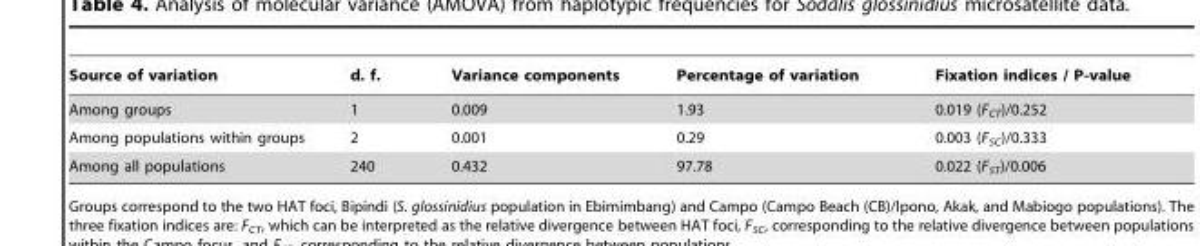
<table><thead><tr><td>Source of variation</td><td>d. f.</td><td>Variance components</td><td>Percentage of variation</td><td>Fixation indices / P-value</td></tr></thead><tbody><tr><td>Among groups</td><td>1</td><td>0.009</td><td>1.93</td><td>0.019 (F<sub>CT</sub>)/0.252</td></tr><tr><td>Among populations within groups</td><td>2</td><td>0.001</td><td>0.29</td><td>0.003 (F<sub>SC</sub>)/0.333</td></tr><tr><td>Among all populations</td><td>240</td><td>0.432</td><td>97.78</td><td>0.022 (F<sub>ST</sub>)/0.006</td></tr></tbody></table>